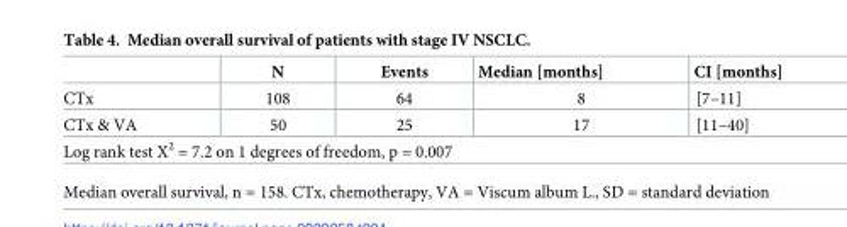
<table><thead><tr><td></td><td>N</td><td>Events</td><td>Median [months]</td><td>CI [months]</td></tr></thead><tbody><tr><td>CTx</td><td>108</td><td>64</td><td>8</td><td>[7–11]</td></tr><tr><td>CTx &amp; VA</td><td>50</td><td>25</td><td>17</td><td>[11–40]</td></tr><tr><td colspan="5">Log rank test Χ<sup>2</sup> = 7.2 on 1 degrees of freedom, p = 0.007</td></tr></tbody></table>